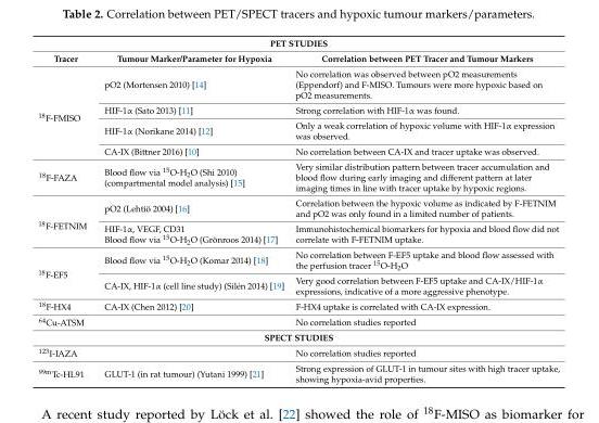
<table><thead><tr><td colspan="3">PET STUDIES</td></tr><tr><td>Tracer</td><td>Tumour Marker/Parameter for Hypoxia</td><td>Correlation between PET Tracer and Tumour Markers</td></tr></thead><tbody><tr><td rowspan="4"><sup>18</sup>F-FMISO</td><td>pO2 (Mortensen 2010) [14]</td><td>No correlation was observed between pO2 measurements (Eppendorf) and F-MISO. Tumours were more hypoxic based on pO2 measurements.</td></tr><tr><td>HIF-1α (Sato 2013) [11]</td><td>Strong correlation with HIF-1α was found.</td></tr><tr><td>HIF-1α (Norikane 2014) [12]</td><td>Only a weak correlation of hypoxic volume with HIF-1α expression was observed.</td></tr><tr><td>CA-IX (Bittner 2016) [10]</td><td>No correlation between CA-IX and tracer uptake was observed.</td></tr><tr><td><sup>18</sup>F-FAZA</td><td>Blood flow via <sup>15</sup>O-H<sub>2</sub>O (Shi 2010) (compartmental model analysis) [15]</td><td>Very similar distribution pattern between tracer accumulation and blood flow during early imaging and different pattern at later imaging times in line with tracer uptake by hypoxic regions.</td></tr><tr><td rowspan="2"><sup>18</sup>F-FETNIM</td><td>pO2 (Lehtiö 2004) [16]</td><td>Correlation between the hypoxic volume as indicated by F-FETNIM and pO2 was only found in a limited number of patients.</td></tr><tr><td>HIF-1α, VEGF, CD31 Blood flow via <sup>15</sup>O-H<sub>2</sub>O (Grönroos 2014) [17]</td><td>Immunohistochemical biomarkers for hypoxia and blood flow did not correlate with F-FETNIM uptake.</td></tr><tr><td rowspan="2"><sup>18</sup>F-EF5</td><td>Blood flow via <sup>15</sup>O-H<sub>2</sub>O (Komar 2014) [18]</td><td>No correlation between F-EF5 uptake and blood flow assessed with the perfusion tracer <sup>15</sup>O-H<sub>2</sub>O</td></tr><tr><td>CA-IX, HIF-1α (cell line study) (Silén 2014) [19]</td><td>Very good correlation between F-EF5 uptake and CA-IX/HIF-1α expressions, indicative of a more aggressive phenotype.</td></tr><tr><td><sup>18</sup>F-HX4</td><td>CA-IX (Chen 2012) [20]</td><td>F-HX4 uptake is correlated with CA-IX expression.</td></tr><tr><td><sup>64</sup>Cu-ATSM</td><td></td><td>No correlation studies reported</td></tr><tr><td colspan="3">SPECT STUDIES</td></tr><tr><td><sup>123</sup>I-IAZA</td><td></td><td>No correlation studies reported</td></tr><tr><td><sup>99m</sup>Tc-HL91</td><td>GLUT-1 (in rat tumour) (Yutani 1999) [21]</td><td>Strong expression of GLUT-1 in tumour sites with high tracer uptake, showing hypoxia-avid properties.</td></tr></tbody></table>